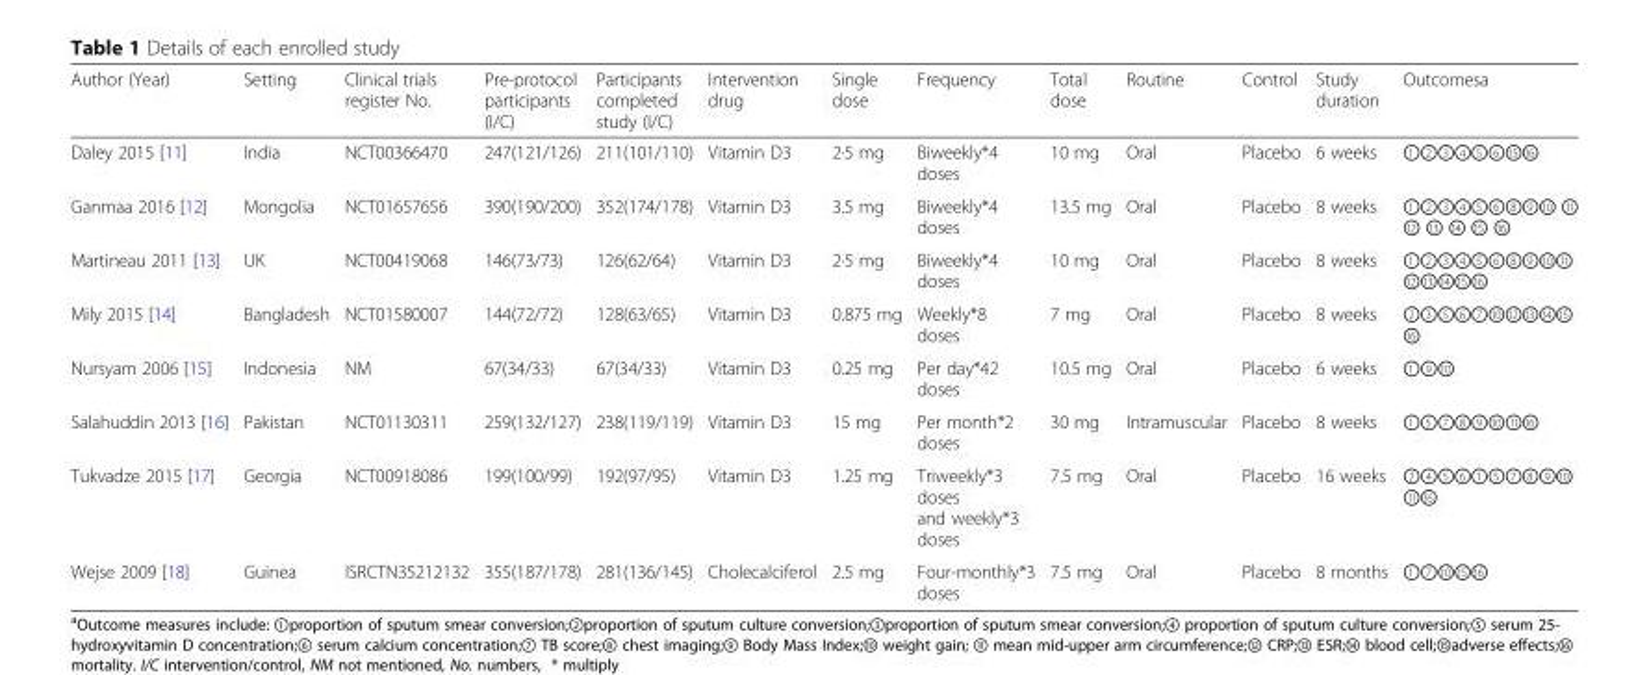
<table><thead><tr><td>Author (Year)</td><td>Setting</td><td>Clinical trials register No.</td><td>Pre-protocol participants (I/C)</td><td>Participants completed study (I/C)</td><td>Intervention drug</td><td>Single dose</td><td>Frequency</td><td>Total dose</td><td>Routine</td><td>Control</td><td>Study duration</td><td>Outcomesa</td></tr></thead><tbody><tr><td>Daley 2015 [11]</td><td>India</td><td>NCT00366470</td><td>247(121/126)</td><td>211(101/110)</td><td>Vitamin D3</td><td>2·5 mg</td><td>Biweekly*4 doses</td><td>10 mg</td><td>Oral</td><td>Placebo</td><td>6 weeks</td><td>①②③④⑤⑥⑮⑯</td></tr><tr><td>Ganmaa 2016 [12]</td><td>Mongolia</td><td>NCT01657656</td><td>390(190/200)</td><td>352(174/178)</td><td>Vitamin D3</td><td>3.5 mg</td><td>Biweekly*4 doses</td><td>13.5 mg</td><td>Oral</td><td>Placebo</td><td>8 weeks</td><td>①②③④⑤⑥⑧⑨⑩ ⑪ ⑫ ⑬ ⑭ ⑮ ⑯</td></tr><tr><td>Martineau 2011 [13]</td><td>UK</td><td>NCT00419068</td><td>146(73/73)</td><td>126(62/64)</td><td>Vitamin D3</td><td>2·5 mg</td><td>Biweekly*4 doses</td><td>10 mg</td><td>Oral</td><td>Placebo</td><td>8 weeks</td><td>①②③④⑤⑥⑧⑨⑩⑪ ⑫⑬⑭⑮⑯</td></tr><tr><td>Mily 2015 [14]</td><td>Bangladesh</td><td>NCT01580007</td><td>144(72/72)</td><td>128(63/65)</td><td>Vitamin D3</td><td>0.875 mg</td><td>Weekly*8 doses</td><td>7 mg</td><td>Oral</td><td>Placebo</td><td>8 weeks</td><td>②③⑤⑥⑦⑩⑫⑬⑭⑮ ⑯</td></tr><tr><td>Nursyam 2006 [15]</td><td>Indonesia</td><td>NM</td><td>67(34/33)</td><td>67(34/33)</td><td>Vitamin D3</td><td>0.25 mg</td><td>Per day*42 doses</td><td>10.5 mg</td><td>Oral</td><td>Placebo</td><td>6 weeks</td><td>①⑨⑩</td></tr><tr><td>Salahuddin 2013 [16]</td><td>Pakistan</td><td>NCT01130311</td><td>259(132/127)</td><td>238(119/119)</td><td>Vitamin D3</td><td>15 mg</td><td>Per month*2 doses</td><td>30 mg</td><td>Intramuscular</td><td>Placebo</td><td>8 weeks</td><td>①⑤⑦⑧⑨⑩⑪⑯</td></tr><tr><td>Tukvadze 2015 [17]</td><td>Georgia</td><td>NCT00918086</td><td>199(100/99)</td><td>192(97/95)</td><td>Vitamin D3</td><td>1.25 mg</td><td>Triweekly*3 doses and weekly*3 doses</td><td>7.5 mg</td><td>Oral</td><td>Placebo</td><td>16 weeks</td><td>②④⑤⑥①⑤⑦⑧⑨⑩ ⑪⑯</td></tr><tr><td>Wejse 2009 [18]</td><td>Guinea</td><td>ISRCTN35212132</td><td>355(187/178)</td><td>281(136/145)</td><td>Cholecalciferol</td><td>2.5 mg</td><td>Four-monthly*3 doses</td><td>7.5 mg</td><td>Oral</td><td>Placebo</td><td>8 months</td><td>①⑦⑩⑮⑯</td></tr></tbody></table>